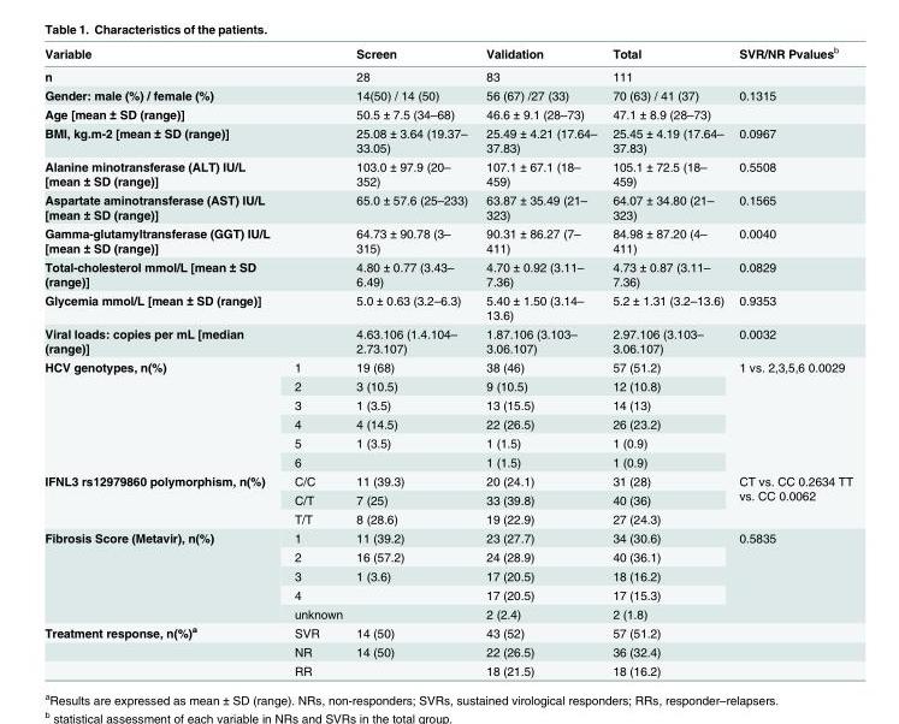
<table><thead><tr><td>Variable</td><td></td><td>Screen</td><td>Validation</td><td>Total</td><td>SVR/NR Pvalues<sup>b</sup></td></tr></thead><tbody><tr><td>n</td><td></td><td>28</td><td>83</td><td>111</td><td></td></tr><tr><td>Gender: male (%) / female (%)</td><td></td><td>14(50) / 14 (50)</td><td>56 (67) /27 (33)</td><td>70 (63) / 41 (37)</td><td>0.1315</td></tr><tr><td>Age [mean ± SD (range)]</td><td></td><td>50.5 ± 7.5 (34–68)</td><td>46.6 ± 9.1 (28–73)</td><td>47.1 ± 8.9 (28–73)</td><td></td></tr><tr><td>BMI, kg.m-2 [mean ± SD (range)]</td><td></td><td>25.08 ± 3.64 (19.37– 33.05)</td><td>25.49 ± 4.21 (17.64– 37.83)</td><td>25.45 ± 4.19 (17.64– 37.83)</td><td>0.0967</td></tr><tr><td>Alanine minotransferase (ALT) IU/L [mean ± SD (range)]</td><td></td><td>103.0 ± 97.9 (20– 352)</td><td>107.1 ± 67.1 (18– 459)</td><td>105.1 ± 72.5 (18– 459)</td><td>0.5508</td></tr><tr><td>Aspartate aminotransferase (AST) IU/L [mean ± SD (range)]</td><td></td><td>65.0 ± 57.6 (25–233)</td><td>63.87 ± 35.49 (21– 323)</td><td>64.07 ± 34.80 (21– 323)</td><td>0.1565</td></tr><tr><td>Gamma-glutamyltransferase (GGT) IU/L [mean ± SD (range)]</td><td></td><td>64.73 ± 90.78 (3– 315)</td><td>90.31 ± 86.27 (7– 411)</td><td>84.98 ± 87.20 (4– 411)</td><td>0.0040</td></tr><tr><td>Total-cholesterol mmol/L [mean ± SD (range)]</td><td></td><td>4.80 ± 0.77 (3.43– 6.49)</td><td>4.70 ± 0.92 (3.11– 7.36)</td><td>4.73 ± 0.87 (3.11– 7.36)</td><td>0.0829</td></tr><tr><td>Glycemia mmol/L [mean ± SD (range)]</td><td></td><td>5.0 ± 0.63 (3.2–6.3)</td><td>5.40 ± 1.50 (3.14– 13.6)</td><td>5.2 ± 1.31 (3.2–13.6)</td><td>0.9353</td></tr><tr><td>Viral loads: copies per mL [median (range)]</td><td></td><td>4.63.106 (1.4.104– 2.73.107)</td><td>1.87.106 (3.103– 3.06.107)</td><td>2.97.106 (3.103– 3.06.107)</td><td>0.0032</td></tr><tr><td rowspan="6">HCV genotypes, n(%)</td><td>1</td><td>19 (68)</td><td>38 (46)</td><td>57 (51.2)</td><td rowspan="6">1 vs. 2,3,5,6 0.0029</td></tr><tr><td>2</td><td>3 (10.5)</td><td>9 (10.5)</td><td>12 (10.8)</td></tr><tr><td>3</td><td>1 (3.5)</td><td>13 (15.5)</td><td>14 (13)</td></tr><tr><td>4</td><td>4 (14.5)</td><td>22 (26.5)</td><td>26 (23.2)</td></tr><tr><td>5</td><td>1 (3.5)</td><td>1 (1.5)</td><td>1 (0.9)</td></tr><tr><td>6</td><td></td><td>1 (1.5)</td><td>1 (0.9)</td></tr><tr><td rowspan="3">IFNL3 rs12979860 polymorphism, n(%)</td><td>C/C</td><td>11 (39.3)</td><td>20 (24.1)</td><td>31 (28)</td><td rowspan="3">CT vs. CC 0.2634 TT vs. CC 0.0062</td></tr><tr><td>C/T</td><td>7 (25)</td><td>33 (39.8)</td><td>40 (36)</td></tr><tr><td>T/T</td><td>8 (28.6)</td><td>19 (22.9)</td><td>27 (24.3)</td></tr><tr><td rowspan="5">Fibrosis Score (Metavir), n(%)</td><td>1</td><td>11 (39.2)</td><td>23 (27.7)</td><td>34 (30.6)</td><td rowspan="5">0.5835</td></tr><tr><td>2</td><td>16 (57.2)</td><td>24 (28.9)</td><td>40 (36.1)</td></tr><tr><td>3</td><td>1 (3.6)</td><td>17 (20.5)</td><td>18 (16.2)</td></tr><tr><td>4</td><td></td><td>17 (20.5)</td><td>17 (15.3)</td></tr><tr><td>unknown</td><td></td><td>2 (2.4)</td><td>2 (1.8)</td></tr><tr><td rowspan="3">Treatment response, n(%)<sup>a</sup></td><td>SVR</td><td>14 (50)</td><td>43 (52)</td><td>57 (51.2)</td><td></td></tr><tr><td>NR</td><td>14 (50)</td><td>22 (26.5)</td><td>36 (32.4)</td><td></td></tr><tr><td>RR</td><td></td><td>18 (21.5)</td><td>18 (16.2)</td><td></td></tr></tbody></table>